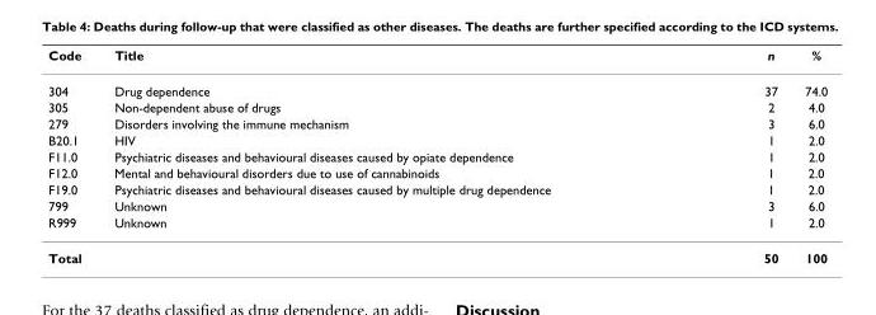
<table><thead><tr><td>Code</td><td>Title</td><td>n</td><td>%</td></tr></thead><tbody><tr><td>304</td><td>Drug dependence</td><td>37</td><td>74.0</td></tr><tr><td>305</td><td>Non-dependent abuse of drugs</td><td>2</td><td>4.0</td></tr><tr><td>279</td><td>Disorders involving the immune mechanism</td><td>3</td><td>6.0</td></tr><tr><td>B20.1</td><td>HIV</td><td>1</td><td>2.0</td></tr><tr><td>F11.0</td><td>Psychiatric diseases and behavioural diseases caused by opiate dependence</td><td>1</td><td>2.0</td></tr><tr><td>F12.0</td><td>Mental and behavioural disorders due to use of cannabinoids</td><td>1</td><td>2.0</td></tr><tr><td>F19.0</td><td>Psychiatric diseases and behavioural diseases caused by multiple drug dependence</td><td>1</td><td>2.0</td></tr><tr><td>799</td><td>Unknown</td><td>3</td><td>6.0</td></tr><tr><td>R999</td><td>Unknown</td><td>1</td><td>2.0</td></tr><tr><td>Total</td><td></td><td>50</td><td>100</td></tr></tbody></table>